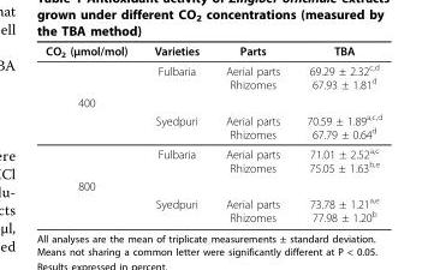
<table><thead><tr><td>CO2 (μmol/mol)</td><td>Varieties</td><td>Parts</td><td>TBA</td></tr></thead><tbody><tr><td></td><td>Fulbaria</td><td>Aerial parts Rhizomes</td><td>69.29 ± 2.32c,d 67.93 ± 1.81d</td></tr><tr><td colspan="4">400</td></tr><tr><td></td><td>Syedpuri</td><td>Aerial parts Rhizomes</td><td>70.59 ± 1.89a,c,d 67.79 ± 0.64d</td></tr><tr><td></td><td>Fulbaria</td><td>Aerial parts Rhizomes</td><td>71.01 ± 2.52a,c 75.05 ± 1.63b,e</td></tr><tr><td colspan="4">800</td></tr><tr><td></td><td>Syedpuri</td><td>Aerial parts Rhizomes</td><td>73.78 ± 1.21a,e 77.98 ± 1.20b</td></tr></tbody></table>